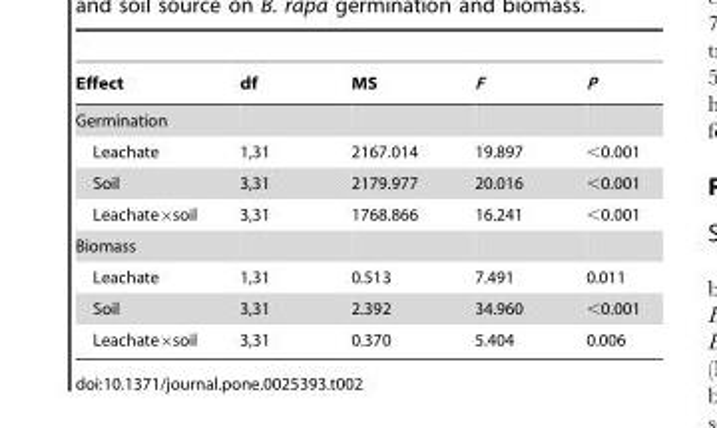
<table><thead><tr><td>Effect</td><td>df</td><td>MS</td><td>F</td><td>P</td></tr></thead><tbody><tr><td colspan="5">Germination</td></tr><tr><td>Leachate</td><td>1,31</td><td>2167.014</td><td>19.897</td><td>&lt;0.001</td></tr><tr><td>Soil</td><td>3,31</td><td>2179.977</td><td>20.016</td><td>&lt;0.001</td></tr><tr><td>Leachate×soil</td><td>3,31</td><td>1768.866</td><td>16.241</td><td>&lt;0.001</td></tr><tr><td colspan="5">Biomass</td></tr><tr><td>Leachate</td><td>1,31</td><td>0.513</td><td>7.491</td><td>0.011</td></tr><tr><td>Soil</td><td>3,31</td><td>2.392</td><td>34.960</td><td>&lt;0.001</td></tr><tr><td>Leachate×soil</td><td>3,31</td><td>0.370</td><td>5.404</td><td>0.006</td></tr></tbody></table>